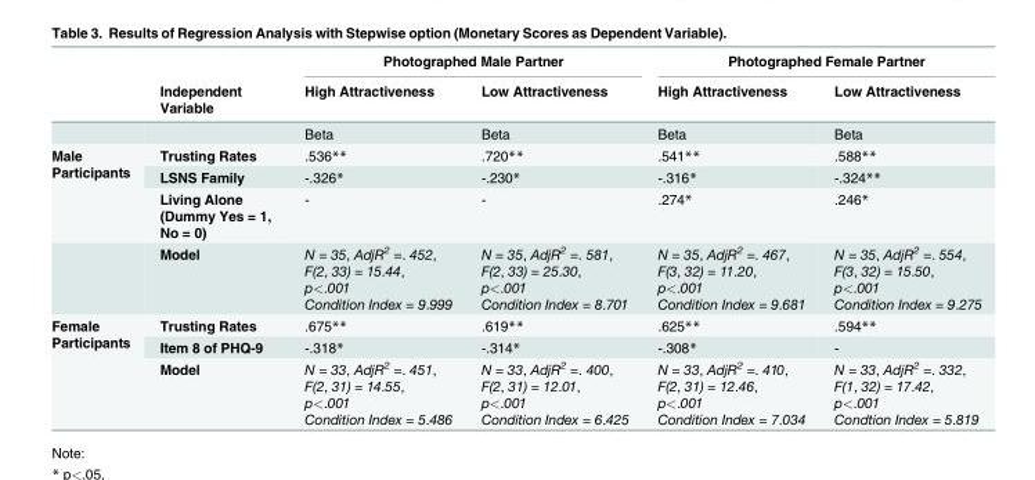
<table><thead><tr><td rowspan="2"></td><td rowspan="2">Independent Variable</td><td colspan="2">Photographed Male Partner</td><td colspan="2">Photographed Female Partner</td></tr><tr><td>High Attractiveness</td><td>Low Attractiveness</td><td>High Attractiveness</td><td>Low Attractiveness</td></tr></thead><tbody><tr><td></td><td></td><td>Beta</td><td>Beta</td><td>Beta</td><td>Beta</td></tr><tr><td rowspan="4">Male Participants</td><td>Trusting Rates</td><td>.536**</td><td>.720**</td><td>.541**</td><td>.588**</td></tr><tr><td>LSNS Family</td><td>-.326*</td><td>-.230*</td><td>-.316*</td><td>-.324**</td></tr><tr><td>Living Alone (Dummy Yes = 1, No = 0)</td><td>-</td><td>-</td><td>.274*</td><td>.246*</td></tr><tr><td>Model</td><td>N = 35, AdjR<sup>2</sup> =. 452, F(2, 33) = 15.44, p&lt;.001 Condition Index = 9.999</td><td>N = 35, AdjR<sup>2</sup> =. 581, F(2, 33) = 25.30, p&lt;.001 Condition Index = 8.701</td><td>N = 35, AdjR<sup>2</sup> =. 467, F(3, 32) = 11.20, p&lt;.001 Condition Index = 9.681</td><td>N = 35, AdjR<sup>2</sup> =. 554, F(3, 32) = 15.50, p&lt;.001 Condition Index = 9.275</td></tr><tr><td rowspan="3">Female Participants</td><td>Trusting Rates</td><td>.675**</td><td>.619**</td><td>.625**</td><td>.594**</td></tr><tr><td>Item 8 of PHQ-9</td><td>-.318*</td><td>-.314*</td><td>-.308*</td><td>-</td></tr><tr><td>Model</td><td>N = 33, AdjR<sup>2</sup> =. 451, F(2, 31) = 14.55, p&lt;.001 Condition Index = 5.486</td><td>N = 33, AdjR<sup>2</sup> =. 400, F(2, 31) = 12.01, p&lt;.001 Condition Index = 6.425</td><td>N = 33, AdjR<sup>2</sup> =. 410, F(2, 31) = 12.46, p&lt;.001 Condition Index = 7.034</td><td>N = 33, AdjR<sup>2</sup> =. 332, F(1, 32) = 17.42, p&lt;.001 Condtion Index = 5.819</td></tr></tbody></table>